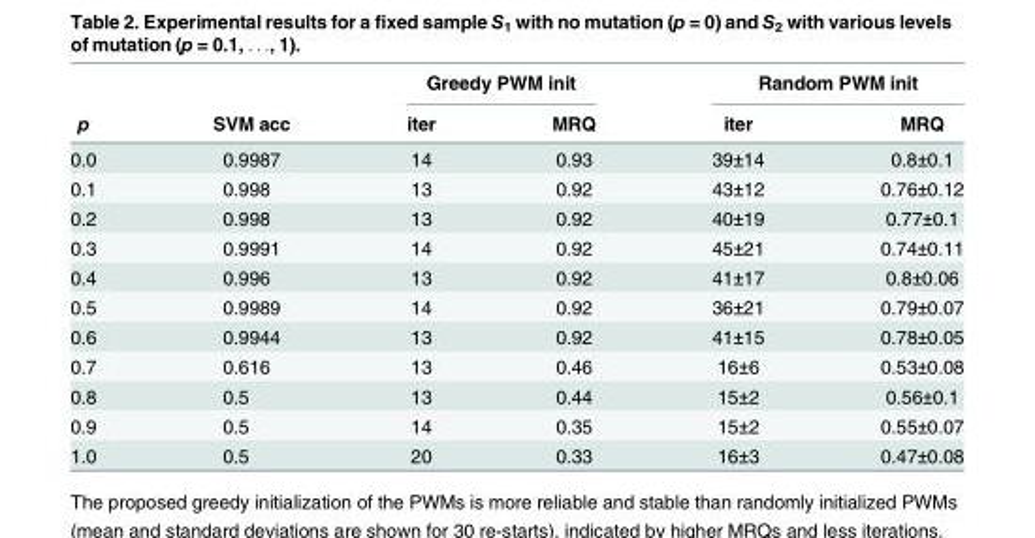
<table><thead><tr><td rowspan="2">p</td><td rowspan="2">SVM acc</td><td colspan="2">Greedy PWM init</td><td colspan="2">Random PWM init</td></tr><tr><td>iter</td><td>MRQ</td><td>iter</td><td>MRQ</td></tr></thead><tbody><tr><td>0.0</td><td>0.9987</td><td>14</td><td>0.93</td><td>39±14</td><td>0.8±0.1</td></tr><tr><td>0.1</td><td>0.998</td><td>13</td><td>0.92</td><td>43±12</td><td>0.76±0.12</td></tr><tr><td>0.2</td><td>0.998</td><td>13</td><td>0.92</td><td>40±19</td><td>0.77±0.1</td></tr><tr><td>0.3</td><td>0.9991</td><td>14</td><td>0.92</td><td>45±21</td><td>0.74±0.11</td></tr><tr><td>0.4</td><td>0.996</td><td>13</td><td>0.92</td><td>41±17</td><td>0.8±0.06</td></tr><tr><td>0.5</td><td>0.9989</td><td>14</td><td>0.92</td><td>36±21</td><td>0.79±0.07</td></tr><tr><td>0.6</td><td>0.9944</td><td>13</td><td>0.92</td><td>41±15</td><td>0.78±0.05</td></tr><tr><td>0.7</td><td>0.616</td><td>13</td><td>0.46</td><td>16±6</td><td>0.53±0.08</td></tr><tr><td>0.8</td><td>0.5</td><td>13</td><td>0.44</td><td>15±2</td><td>0.56±0.1</td></tr><tr><td>0.9</td><td>0.5</td><td>14</td><td>0.35</td><td>15±2</td><td>0.55±0.07</td></tr><tr><td>1.0</td><td>0.5</td><td>20</td><td>0.33</td><td>16±3</td><td>0.47±0.08</td></tr></tbody></table>